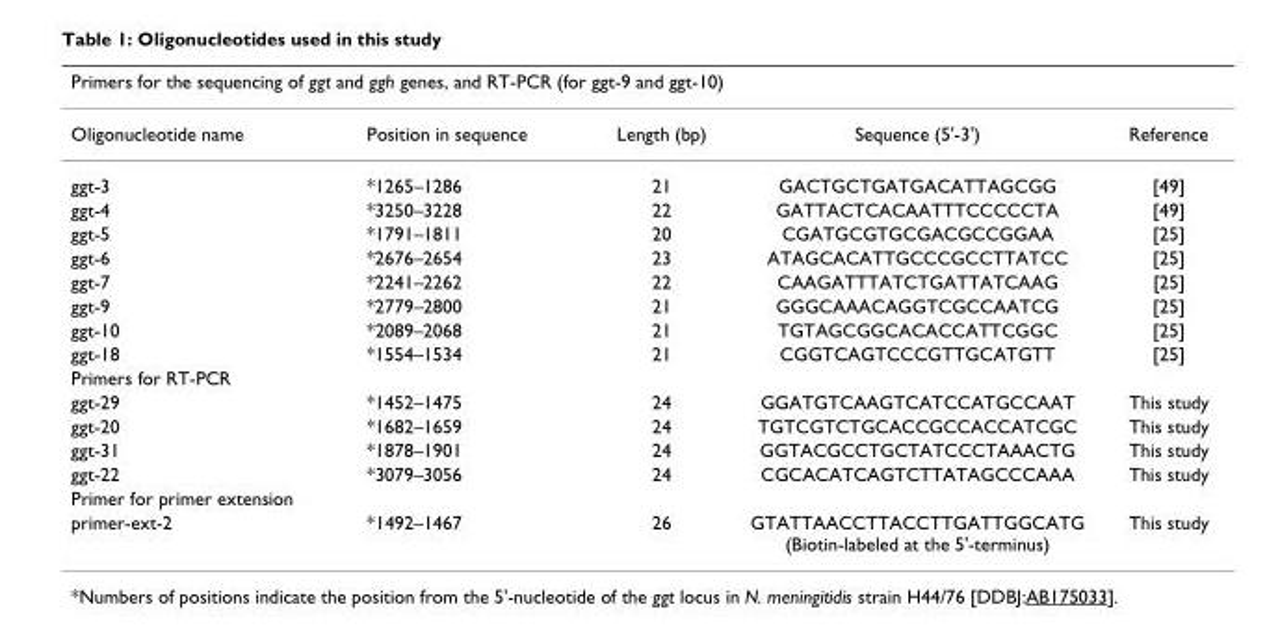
<table><thead><tr><td colspan="5">Primers for the sequencing of ggt and ggh genes, and RT-PCR (for ggt-9 and ggt-10)</td></tr><tr><td>Oligonucleotide name</td><td>Position in sequence</td><td>Length (bp)</td><td>Sequence (5&#x27;-3&#x27;)</td><td>Reference</td></tr></thead><tbody><tr><td>ggt-3</td><td>*1265–1286</td><td>21</td><td>GACTGCTGATGACATTAGCGG</td><td>[49]</td></tr><tr><td>ggt-4</td><td>*3250–3228</td><td>22</td><td>GATTACTCACAATTTCCCCCTA</td><td>[49]</td></tr><tr><td>ggt-5</td><td>*1791–1811</td><td>20</td><td>CGATGCGTGCGACGCCGGAA</td><td>[25]</td></tr><tr><td>ggt-6</td><td>*2676–2654</td><td>23</td><td>ATAGCACATTGCCCGCCTTATCC</td><td>[25]</td></tr><tr><td>ggt-7</td><td>*2241–2262</td><td>22</td><td>CAAGATTTATCTGATTATCAAG</td><td>[25]</td></tr><tr><td>ggt-9</td><td>*2779–2800</td><td>21</td><td>GGGCAAACAGGTCGCCAATCG</td><td>[25]</td></tr><tr><td>ggt-10</td><td>*2089–2068</td><td>21</td><td>TGTAGCGGCACACCATTCGGC</td><td>[25]</td></tr><tr><td>ggt-18</td><td>*1554–1534</td><td>21</td><td>CGGTCAGTCCCGTTGCATGTT</td><td>[25]</td></tr><tr><td colspan="5">Primers for RT-PCR</td></tr><tr><td>ggt-29</td><td>*1452–1475</td><td>24</td><td>GGATGTCAAGTCATCCATGCCAAT</td><td>This study</td></tr><tr><td>ggt-20</td><td>*1682–1659</td><td>24</td><td>TGTCGTCTGCACCGCCACCATCGC</td><td>This study</td></tr><tr><td>ggt-31</td><td>*1878–1901</td><td>24</td><td>GGTACGCCTGCTATCCCTAAACTG</td><td>This study</td></tr><tr><td>ggt-22</td><td>*3079–3056</td><td>24</td><td>CGCACATCAGTCTTATAGCCCAAA</td><td>This study</td></tr><tr><td colspan="5">Primer for primer extension</td></tr><tr><td>primer-ext-2</td><td>*1492–1467</td><td>26</td><td>GTATTAACCTTACCTTGATTGGCATG (Biotin-labeled at the 5&#x27;-terminus)</td><td>This study</td></tr></tbody></table>